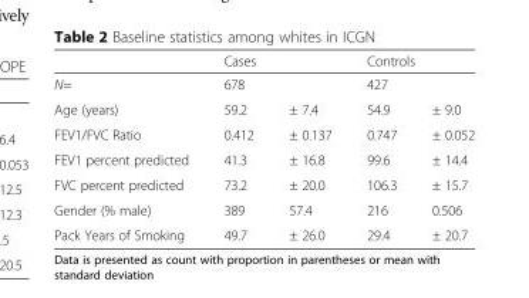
<table><thead><tr><td rowspan="2">N=</td><td colspan="2">Cases</td><td colspan="2">Controls</td></tr><tr><td>678</td><td></td><td>427</td><td></td></tr></thead><tbody><tr><td>Age (years)</td><td>59.2</td><td>± 7.4</td><td>54.9</td><td>± 9.0</td></tr><tr><td>FEV1/FVC Ratio</td><td>0.412</td><td>± 0.137</td><td>0.747</td><td>± 0.052</td></tr><tr><td>FEV1 percent predicted</td><td>41.3</td><td>± 16.8</td><td>99.6</td><td>± 14.4</td></tr><tr><td>FVC percent predicted</td><td>73.2</td><td>± 20.0</td><td>106.3</td><td>± 15.7</td></tr><tr><td>Gender (% male)</td><td>389</td><td>57.4</td><td>216</td><td>0.506</td></tr><tr><td>Pack Years of Smoking</td><td>49.7</td><td>± 26.0</td><td>29.4</td><td>± 20.7</td></tr></tbody></table>